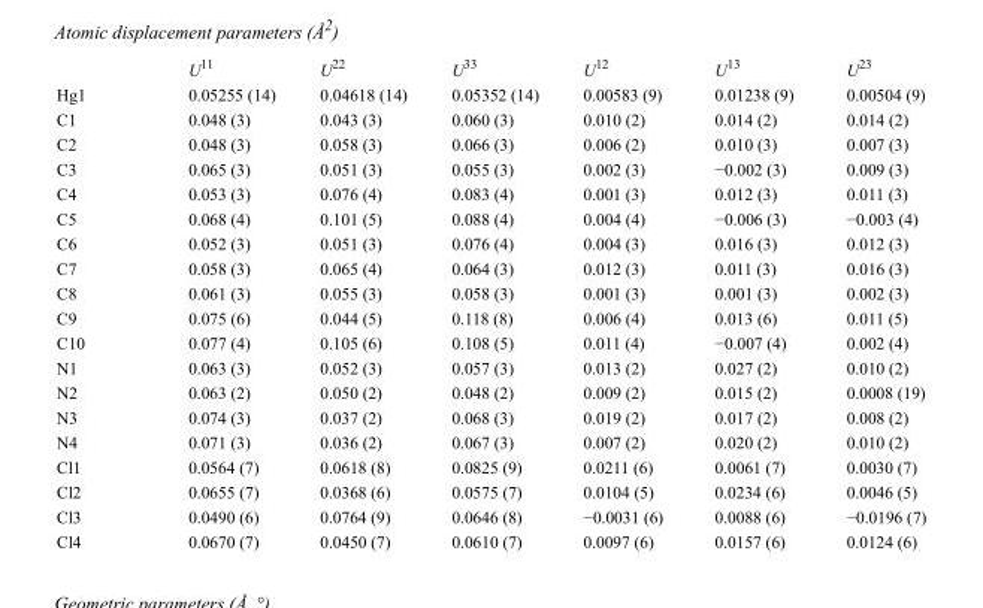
<table><thead><tr><td></td><td>U<sup>11</sup></td><td>U<sup>22</sup></td><td>U<sup>33</sup></td><td>U<sup>12</sup></td><td>U<sup>13</sup></td><td>U<sup>23</sup></td></tr></thead><tbody><tr><td>Hg1</td><td>0.05255 (14)</td><td>0.04618 (14)</td><td>0.05352 (14)</td><td>0.00583 (9)</td><td>0.01238 (9)</td><td>0.00504 (9)</td></tr><tr><td>C1</td><td>0.048 (3)</td><td>0.043 (3)</td><td>0.060 (3)</td><td>0.010 (2)</td><td>0.014 (2)</td><td>0.014 (2)</td></tr><tr><td>C2</td><td>0.048 (3)</td><td>0.058 (3)</td><td>0.066 (3)</td><td>0.006 (2)</td><td>0.010 (3)</td><td>0.007 (3)</td></tr><tr><td>C3</td><td>0.065 (3)</td><td>0.051 (3)</td><td>0.055 (3)</td><td>0.002 (3)</td><td>−0.002 (3)</td><td>0.009 (3)</td></tr><tr><td>C4</td><td>0.053 (3)</td><td>0.076 (4)</td><td>0.083 (4)</td><td>0.001 (3)</td><td>0.012 (3)</td><td>0.011 (3)</td></tr><tr><td>C5</td><td>0.068 (4)</td><td>0.101 (5)</td><td>0.088 (4)</td><td>0.004 (4)</td><td>−0.006 (3)</td><td>−0.003 (4)</td></tr><tr><td>C6</td><td>0.052 (3)</td><td>0.051 (3)</td><td>0.076 (4)</td><td>0.004 (3)</td><td>0.016 (3)</td><td>0.012 (3)</td></tr><tr><td>C7</td><td>0.058 (3)</td><td>0.065 (4)</td><td>0.064 (3)</td><td>0.012 (3)</td><td>0.011 (3)</td><td>0.016 (3)</td></tr><tr><td>C8</td><td>0.061 (3)</td><td>0.055 (3)</td><td>0.058 (3)</td><td>0.001 (3)</td><td>0.001 (3)</td><td>0.002 (3)</td></tr><tr><td>C9</td><td>0.075 (6)</td><td>0.044 (5)</td><td>0.118 (8)</td><td>0.006 (4)</td><td>0.013 (6)</td><td>0.011 (5)</td></tr><tr><td>C10</td><td>0.077 (4)</td><td>0.105 (6)</td><td>0.108 (5)</td><td>0.011 (4)</td><td>−0.007 (4)</td><td>0.002 (4)</td></tr><tr><td>N1</td><td>0.063 (3)</td><td>0.052 (3)</td><td>0.057 (3)</td><td>0.013 (2)</td><td>0.027 (2)</td><td>0.010 (2)</td></tr><tr><td>N2</td><td>0.063 (2)</td><td>0.050 (2)</td><td>0.048 (2)</td><td>0.009 (2)</td><td>0.015 (2)</td><td>0.0008 (19)</td></tr><tr><td>N3</td><td>0.074 (3)</td><td>0.037 (2)</td><td>0.068 (3)</td><td>0.019 (2)</td><td>0.017 (2)</td><td>0.008 (2)</td></tr><tr><td>N4</td><td>0.071 (3)</td><td>0.036 (2)</td><td>0.067 (3)</td><td>0.007 (2)</td><td>0.020 (2)</td><td>0.010 (2)</td></tr><tr><td>Cl1</td><td>0.0564 (7)</td><td>0.0618 (8)</td><td>0.0825 (9)</td><td>0.0211 (6)</td><td>0.0061 (7)</td><td>0.0030 (7)</td></tr><tr><td>Cl2</td><td>0.0655 (7)</td><td>0.0368 (6)</td><td>0.0575 (7)</td><td>0.0104 (5)</td><td>0.0234 (6)</td><td>0.0046 (5)</td></tr><tr><td>Cl3</td><td>0.0490 (6)</td><td>0.0764 (9)</td><td>0.0646 (8)</td><td>−0.0031 (6)</td><td>0.0088 (6)</td><td>−0.0196 (7)</td></tr><tr><td>Cl4</td><td>0.0670 (7)</td><td>0.0450 (7)</td><td>0.0610 (7)</td><td>0.0097 (6)</td><td>0.0157 (6)</td><td>0.0124 (6)</td></tr></tbody></table>